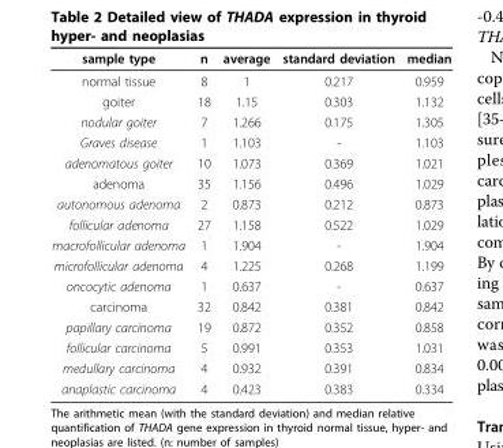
<table><thead><tr><td>sample type</td><td>n</td><td>average</td><td>standard deviation</td><td>median</td></tr></thead><tbody><tr><td>normal tissue</td><td>8</td><td>1</td><td>0.217</td><td>0.959</td></tr><tr><td>goiter</td><td>18</td><td>1.15</td><td>0.303</td><td>1.132</td></tr><tr><td>nodular goiter</td><td>7</td><td>1.266</td><td>0.175</td><td>1.305</td></tr><tr><td>Graves disease</td><td>1</td><td>1.103</td><td>-</td><td>1.103</td></tr><tr><td>adenomatous goiter</td><td>10</td><td>1.073</td><td>0.369</td><td>1.021</td></tr><tr><td>adenoma</td><td>35</td><td>1.156</td><td>0.496</td><td>1.029</td></tr><tr><td>autonomous adenoma</td><td>2</td><td>0.873</td><td>0.212</td><td>0.873</td></tr><tr><td>follicular adenoma</td><td>27</td><td>1.158</td><td>0.522</td><td>1.029</td></tr><tr><td>macrofollicular adenoma</td><td>1</td><td>1.904</td><td>-</td><td>1.904</td></tr><tr><td>microfollicular adenoma</td><td>4</td><td>1.225</td><td>0.268</td><td>1.199</td></tr><tr><td>oncocytic adenoma</td><td>1</td><td>0.637</td><td>-</td><td>0.637</td></tr><tr><td>carcinoma</td><td>32</td><td>0.842</td><td>0.381</td><td>0.842</td></tr><tr><td>papillary carcinoma</td><td>19</td><td>0.872</td><td>0.352</td><td>0.858</td></tr><tr><td>follicular carcinoma</td><td>5</td><td>0.991</td><td>0.353</td><td>1.031</td></tr><tr><td>medullary carcinoma</td><td>4</td><td>0.932</td><td>0.391</td><td>0.834</td></tr><tr><td>anaplastic carcinoma</td><td>4</td><td>0.423</td><td>0.383</td><td>0.334</td></tr></tbody></table>